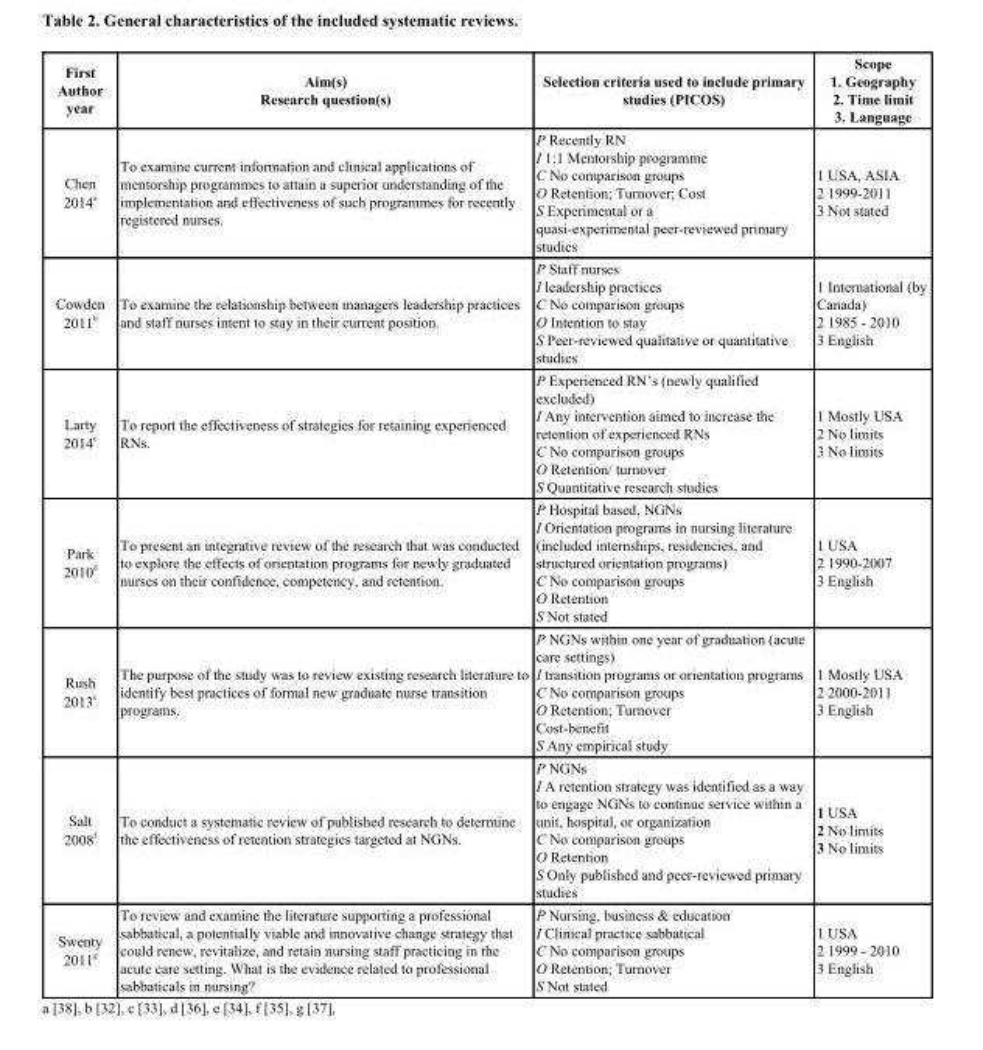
<table><thead><tr><td>First Author year</td><td>Aim(s) Research question(s)</td><td>Selection criteria used to include primary studies (PICOS)</td><td>Scope 1. Geography 2. Time limit 3. Language</td></tr></thead><tbody><tr><td>Chen 2014 <sup>a</sup></td><td>To examine current information and clinical applications of mentorship programmes to attain a superior understanding of the implementation and effectiveness of such programmes for recently registered nurses.</td><td>P Recently RN I 1:1 Mentorship programme C No comparison groups O Retention; Turnover; Cost S Experimental or a quasi-experimental peer-reviewed primary studies</td><td>1 USA, ASIA 2 1999-2011 3 Not stated</td></tr><tr><td>Cowden 2011 <sup>b</sup></td><td>To examine the relationship between managers leadership practices and staff nurses intent to stay in their current position.</td><td>P Staff nurses I leadership practices C No comparison groups O Intention to stay S Peer-reviewed qualitative or quantitative studies</td><td>1 International (by Canada) 2 1985 - 2010 3 English</td></tr><tr><td>Larty 2014 <sup>c</sup></td><td>To report the effectiveness of strategies for retaining experienced RNs.</td><td>P Experienced RN’s (newly qualified excluded) I Any intervention aimed to increase the retention of experienced RNs C No comparison groups O Retention/ turnover S Quantitative research studies</td><td>1 Mostly USA 2 No limits 3 No limits</td></tr><tr><td>Park 2010 <sup>d</sup></td><td>To present an integrative review of the research that was conducted to explore the effects of orientation programs for newly graduated nurses on their confidence, competency, and retention.</td><td>P Hospital based, NGNs I Orientation programs in nursing literature (included internships, residencies, and structured orientation programs) C No comparison groups O Retention S Not stated</td><td>1 USA 2 1990-2007 3 English</td></tr><tr><td>Rush 2013 <sup>e</sup></td><td>The purpose of the study was to review existing research literature to identify best practices of formal new graduate nurse transition programs.</td><td>P NGNs within one year of graduation (acute care settings) I transition programs or orientation programs C No comparison groups O Retention; Turnover Cost-benefit S Any empirical study</td><td>1 Mostly USA 2 2000-2011 3 English</td></tr><tr><td>Salt 2008 <sup>f</sup></td><td>To conduct a systematic review of published research to determine the effectiveness of retention strategies targeted at NGNs.</td><td>P NGNs I A retention strategy was identified as a way to engage NGNs to continue service within a unit, hospital, or organization C No comparison groups O Retention S Only published and peer-reviewed primary studies</td><td>1 USA 2 No limits 3 No limits</td></tr><tr><td>Swenty 2011 <sup>g</sup></td><td>To review and examine the literature supporting a professional sabbatical, a potentially viable and innovative change strategy that could renew, revitalize, and retain nursing staff practicing in the acute care setting. What is the evidence related to professional sabbaticals in nursing?</td><td>P Nursing, business &amp; education I Clinical practice sabbatical C No comparison groups O Retention; Turnover S Not stated</td><td>1 USA 2 1999 - 2010 3 English</td></tr></tbody></table>